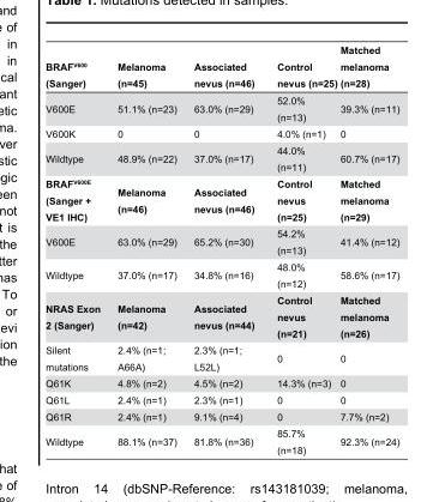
<table><thead><tr><td>BRAF<sup>V600</sup> (Sanger)</td><td>Melanoma (n=45)</td><td>Associated nevus (n=46)</td><td>Control nevus (n=25)</td><td>Matched melanoma (n=28)</td></tr></thead><tbody><tr><td>V600E</td><td>51.1% (n=23)</td><td>63.0% (n=29)</td><td>52.0% (n=13)</td><td>39.3% (n=11)</td></tr><tr><td>V600K</td><td>0</td><td>0</td><td>4.0% (n=1)</td><td>0</td></tr><tr><td>Wildtype</td><td>48.9% (n=22)</td><td>37.0% (n=17)</td><td>44.0% (n=11)</td><td>60.7% (n=17)</td></tr><tr><td>BRAF<sup>V600E</sup> (Sanger + VE1 IHC)</td><td>Melanoma (n=46)</td><td>Associated nevus (n=46)</td><td>Control nevus (n=25)</td><td>Matched melanoma (n=29)</td></tr><tr><td>V600E</td><td>63.0% (n=29)</td><td>65.2% (n=30)</td><td>54.2% (n=13)</td><td>41.4% (n=12)</td></tr><tr><td>Wildtype</td><td>37.0% (n=17)</td><td>34.8% (n=16)</td><td>48.0% (n=12)</td><td>58.6% (n=17)</td></tr><tr><td>NRAS Exon 2 (Sanger)</td><td>Melanoma (n=42)</td><td>Associated nevus (n=44)</td><td>Control nevus (n=21)</td><td>Matched melanoma (n=26)</td></tr><tr><td>Silent mutations</td><td>2.4% (n=1; A66A)</td><td>2.3% (n=1; L52L)</td><td>0</td><td>0</td></tr><tr><td>Q61K</td><td>4.8% (n=2)</td><td>4.5% (n=2)</td><td>14.3% (n=3)</td><td>0</td></tr><tr><td>Q61L</td><td>2.4% (n=1)</td><td>2.3% (n=1)</td><td>0</td><td>0</td></tr><tr><td>Q61R</td><td>2.4% (n=1)</td><td>9.1% (n=4)</td><td>0</td><td>7.7% (n=2)</td></tr><tr><td>Wildtype</td><td>88.1% (n=37)</td><td>81.8% (n=36)</td><td>85.7% (n=18)</td><td>92.3% (n=24)</td></tr></tbody></table>